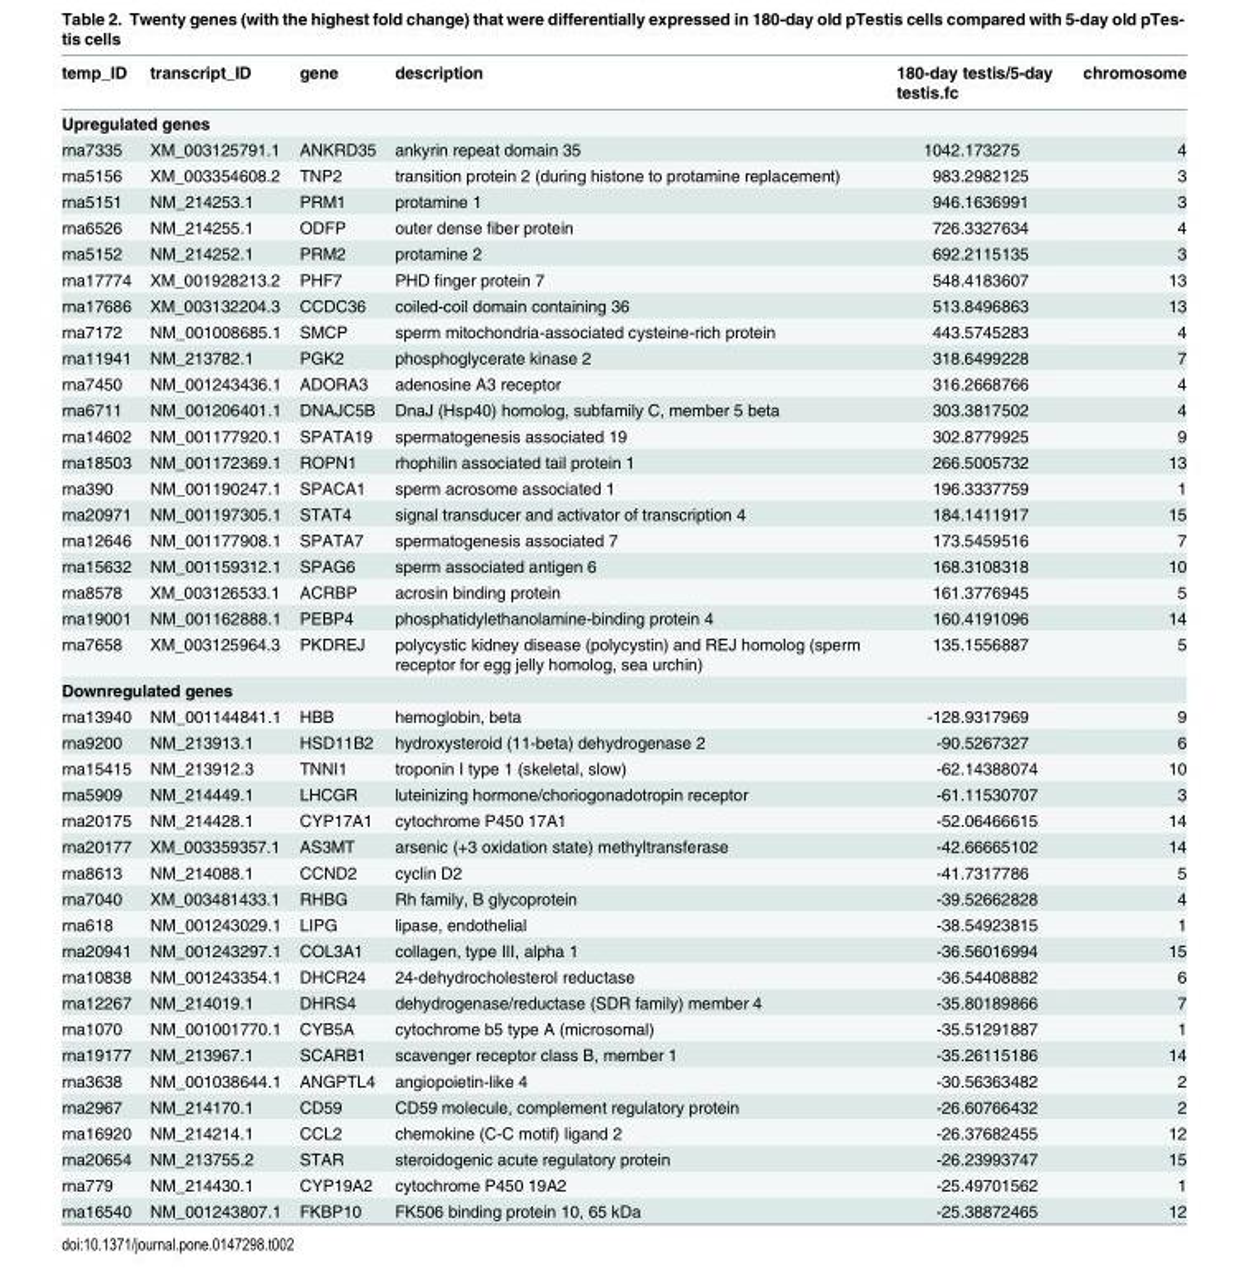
<table><thead><tr><td>temp_ID</td><td>transcript_ID</td><td>gene</td><td>description</td><td>180-day testis/5-day testis.fc</td><td>chromosome</td></tr></thead><tbody><tr><td colspan="6">Upregulated genes</td></tr><tr><td>rna7335</td><td>XM_003125791.1</td><td>ANKRD35</td><td>ankyrin repeat domain 35</td><td>1042.173275</td><td>4</td></tr><tr><td>rna5156</td><td>XM_003354608.2</td><td>TNP2</td><td>transition protein 2 (during histone to protamine replacement)</td><td>983.2982125</td><td>3</td></tr><tr><td>rna5151</td><td>NM_214253.1</td><td>PRM1</td><td>protamine 1</td><td>946.1636991</td><td>3</td></tr><tr><td>rna6526</td><td>NM_214255.1</td><td>ODFP</td><td>outer dense fiber protein</td><td>726.3327634</td><td>4</td></tr><tr><td>rna5152</td><td>NM_214252.1</td><td>PRM2</td><td>protamine 2</td><td>692.2115135</td><td>3</td></tr><tr><td>rna17774</td><td>XM_001928213.2</td><td>PHF7</td><td>PHD finger protein 7</td><td>548.4183607</td><td>13</td></tr><tr><td>rna17686</td><td>XM_003132204.3</td><td>CCDC36</td><td>coiled-coil domain containing 36</td><td>513.8496863</td><td>13</td></tr><tr><td>rna7172</td><td>NM_001008685.1</td><td>SMCP</td><td>sperm mitochondria-associated cysteine-rich protein</td><td>443.5745283</td><td>4</td></tr><tr><td>rna11941</td><td>NM_213782.1</td><td>PGK2</td><td>phosphoglycerate kinase 2</td><td>318.6499228</td><td>7</td></tr><tr><td>rna7450</td><td>NM_001243436.1</td><td>ADORA3</td><td>adenosine A3 receptor</td><td>316.2668766</td><td>4</td></tr><tr><td>rna6711</td><td>NM_001206401.1</td><td>DNAJC5B</td><td>DnaJ (Hsp40) homolog, subfamily C, member 5 beta</td><td>303.3817502</td><td>4</td></tr><tr><td>rna14602</td><td>NM_001177920.1</td><td>SPATA19</td><td>spermatogenesis associated 19</td><td>302.8779925</td><td>9</td></tr><tr><td>rna18503</td><td>NM_001172369.1</td><td>ROPN1</td><td>rhophilin associated tail protein 1</td><td>266.5005732</td><td>13</td></tr><tr><td>rna390</td><td>NM_001190247.1</td><td>SPACA1</td><td>sperm acrosome associated 1</td><td>196.3337759</td><td>1</td></tr><tr><td>rna20971</td><td>NM_001197305.1</td><td>STAT4</td><td>signal transducer and activator of transcription 4</td><td>184.1411917</td><td>15</td></tr><tr><td>rna12646</td><td>NM_001177908.1</td><td>SPATA7</td><td>spermatogenesis associated 7</td><td>173.5459516</td><td>7</td></tr><tr><td>rna15632</td><td>NM_001159312.1</td><td>SPAG6</td><td>sperm associated antigen 6</td><td>168.3108318</td><td>10</td></tr><tr><td>rna8578</td><td>XM_003126533.1</td><td>ACRBP</td><td>acrosin binding protein</td><td>161.3776945</td><td>5</td></tr><tr><td>rna19001</td><td>NM_001162888.1</td><td>PEBP4</td><td>phosphatidylethanolamine-binding protein 4</td><td>160.4191096</td><td>14</td></tr><tr><td>rna7658</td><td>XM_003125964.3</td><td>PKDREJ</td><td>polycystic kidney disease (polycystin) and REJ homolog (sperm receptor for egg jelly homolog, sea urchin)</td><td>135.1556887</td><td>5</td></tr><tr><td colspan="6">Downregulated genes</td></tr><tr><td>rna13940</td><td>NM_001144841.1</td><td>HBB</td><td>hemoglobin, beta</td><td>-128.9317969</td><td>9</td></tr><tr><td>rna9200</td><td>NM_213913.1</td><td>HSD11B2</td><td>hydroxysteroid (11-beta) dehydrogenase 2</td><td>-90.5267327</td><td>6</td></tr><tr><td>rna15415</td><td>NM_213912.3</td><td>TNNI1</td><td>troponin I type 1 (skeletal, slow)</td><td>-62.14388074</td><td>10</td></tr><tr><td>rna5909</td><td>NM_214449.1</td><td>LHCGR</td><td>luteinizing hormone/choriogonadotropin receptor</td><td>-61.11530707</td><td>3</td></tr><tr><td>rna20175</td><td>NM_214428.1</td><td>CYP17A1</td><td>cytochrome P450 17A1</td><td>-52.06466615</td><td>14</td></tr><tr><td>rna20177</td><td>XM_003359357.1</td><td>AS3MT</td><td>arsenic (+3 oxidation state) methyltransferase</td><td>-42.66665102</td><td>14</td></tr><tr><td>rna8613</td><td>NM_214088.1</td><td>CCND2</td><td>cyclin D2</td><td>-41.7317786</td><td>5</td></tr><tr><td>rna7040</td><td>XM_003481433.1</td><td>RHBG</td><td>Rh family, B glycoprotein</td><td>-39.52662828</td><td>4</td></tr><tr><td>rna618</td><td>NM_001243029.1</td><td>LIPG</td><td>lipase, endothelial</td><td>-38.54923815</td><td>1</td></tr><tr><td>rna20941</td><td>NM_001243297.1</td><td>COL3A1</td><td>collagen, type III, alpha 1</td><td>-36.56016994</td><td>15</td></tr><tr><td>rna10838</td><td>NM_001243354.1</td><td>DHCR24</td><td>24-dehydrocholesterol reductase</td><td>-36.54408882</td><td>6</td></tr><tr><td>rna12267</td><td>NM_214019.1</td><td>DHRS4</td><td>dehydrogenase/reductase (SDR family) member 4</td><td>-35.80189866</td><td>7</td></tr><tr><td>rna1070</td><td>NM_001001770.1</td><td>CYB5A</td><td>cytochrome b5 type A (microsomal)</td><td>-35.51291887</td><td>1</td></tr><tr><td>rna19177</td><td>NM_213967.1</td><td>SCARB1</td><td>scavenger receptor class B, member 1</td><td>-35.26115186</td><td>14</td></tr><tr><td>rna3638</td><td>NM_001038644.1</td><td>ANGPTL4</td><td>angiopoietin-like 4</td><td>-30.56363482</td><td>2</td></tr><tr><td>rna2967</td><td>NM_214170.1</td><td>CD59</td><td>CD59 molecule, complement regulatory protein</td><td>-26.60766432</td><td>2</td></tr><tr><td>rna16920</td><td>NM_214214.1</td><td>CCL2</td><td>chemokine (C-C motif) ligand 2</td><td>-26.37682455</td><td>12</td></tr><tr><td>rna20654</td><td>NM_213755.2</td><td>STAR</td><td>steroidogenic acute regulatory protein</td><td>-26.23993747</td><td>15</td></tr><tr><td>rna779</td><td>NM_214430.1</td><td>CYP19A2</td><td>cytochrome P450 19A2</td><td>-25.49701562</td><td>1</td></tr><tr><td>rna16540</td><td>NM_001243807.1</td><td>FKBP10</td><td>FK506 binding protein 10, 65 kDa</td><td>-25.38872465</td><td>12</td></tr></tbody></table>